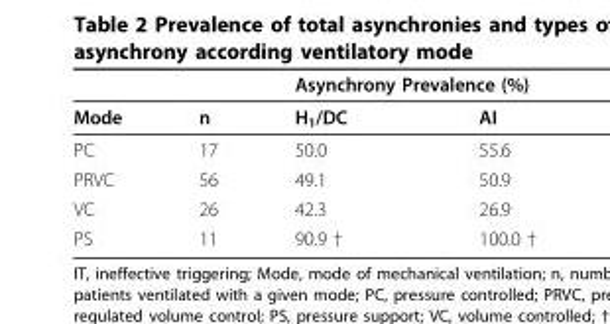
<table><thead><tr><td rowspan="2">Mode</td><td rowspan="2">n</td><td colspan="2">Asynchrony Prevalence (%)</td></tr><tr><td>H<sub>1</sub>/DC</td><td>AI</td></tr></thead><tbody><tr><td>PC</td><td>17</td><td>50.0</td><td>55.6</td></tr><tr><td>PRVC</td><td>56</td><td>49.1</td><td>50.9</td></tr><tr><td>VC</td><td>26</td><td>42.3</td><td>26.9</td></tr><tr><td>PS</td><td>11</td><td>90.9 †</td><td>100.0 †</td></tr></tbody></table>